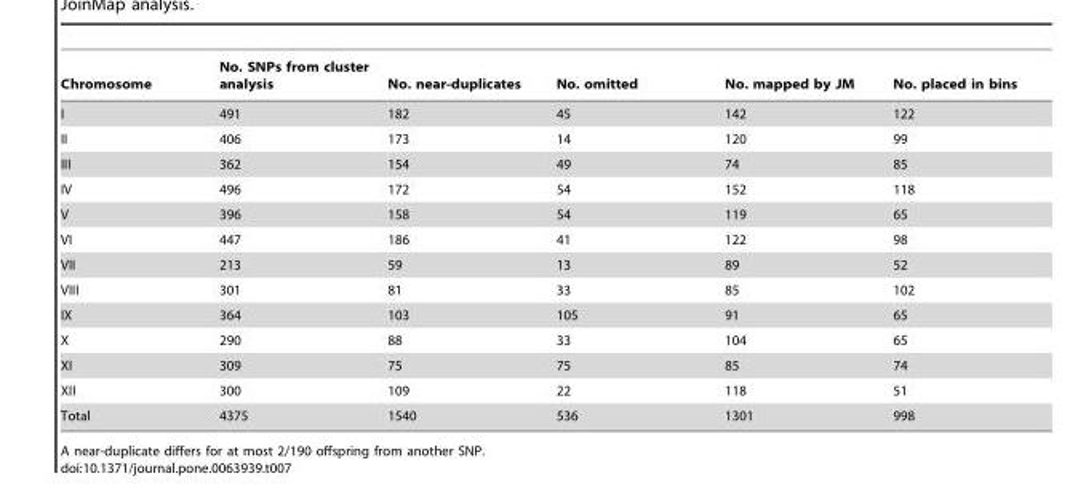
<table><thead><tr><td>Chromosome</td><td>No. SNPs from cluster analysis</td><td>No. near-duplicates</td><td>No. omitted</td><td>No. mapped by JM</td><td>No. placed in bins</td></tr></thead><tbody><tr><td>I</td><td>491</td><td>182</td><td>45</td><td>142</td><td>122</td></tr><tr><td>II</td><td>406</td><td>173</td><td>14</td><td>120</td><td>99</td></tr><tr><td>III</td><td>362</td><td>154</td><td>49</td><td>74</td><td>85</td></tr><tr><td>IV</td><td>496</td><td>172</td><td>54</td><td>152</td><td>118</td></tr><tr><td>V</td><td>396</td><td>158</td><td>54</td><td>119</td><td>65</td></tr><tr><td>VI</td><td>447</td><td>186</td><td>41</td><td>122</td><td>98</td></tr><tr><td>VII</td><td>213</td><td>59</td><td>13</td><td>89</td><td>52</td></tr><tr><td>VIII</td><td>301</td><td>81</td><td>33</td><td>85</td><td>102</td></tr><tr><td>IX</td><td>364</td><td>103</td><td>105</td><td>91</td><td>65</td></tr><tr><td>X</td><td>290</td><td>88</td><td>33</td><td>104</td><td>65</td></tr><tr><td>XI</td><td>309</td><td>75</td><td>75</td><td>85</td><td>74</td></tr><tr><td>XII</td><td>300</td><td>109</td><td>22</td><td>118</td><td>51</td></tr><tr><td>Total</td><td>4375</td><td>1540</td><td>536</td><td>1301</td><td>998</td></tr></tbody></table>